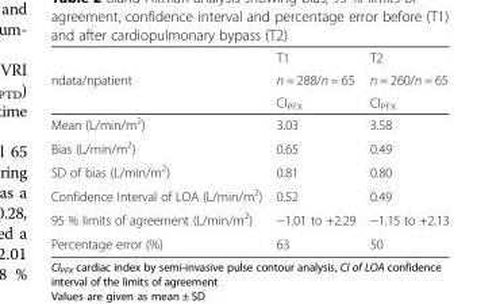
<table><thead><tr><td rowspan="3">ndata/npatient</td><td rowspan="3">T1 n = 288/n = 65 CI<sub>PFX</sub></td><td rowspan="3">T2 n = 260/n = 65 CI<sub>PFX</sub></td></tr><tr></tr><tr></tr></thead><tbody><tr><td>Mean (L/min/m<sup>2</sup>)</td><td>3.03</td><td>3.58</td></tr><tr><td>Bias (L/min/m<sup>2</sup>)</td><td>0.65</td><td>0.49</td></tr><tr><td>SD of bias (L/min/m<sup>2</sup>)</td><td>0.81</td><td>0.80</td></tr><tr><td>Confidence Interval of LOA (L/min/m<sup>2</sup>)</td><td>0.52</td><td>0.49</td></tr><tr><td>95 % limits of agreement (L/min/m<sup>2</sup>)</td><td>−1.01 to +2.29</td><td>−1.15 to +2.13</td></tr><tr><td>Percentage error (%)</td><td>63</td><td>50</td></tr></tbody></table>